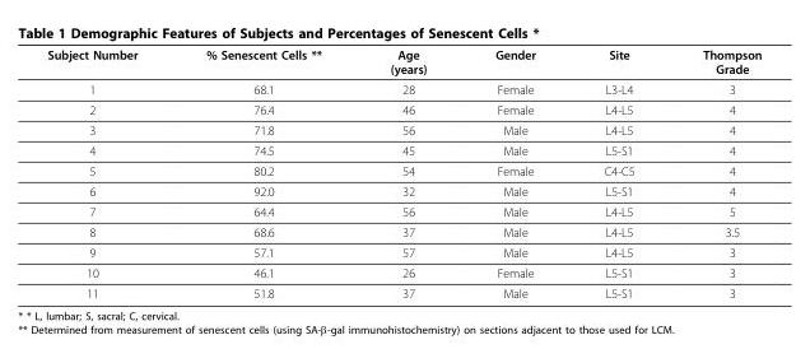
<table><thead><tr><td>Subject Number</td><td>% Senescent Cells **</td><td>Age (years)</td><td>Gender</td><td>Site</td><td>Thompson Grade</td></tr></thead><tbody><tr><td>1</td><td>68.1</td><td>28</td><td>Female</td><td>L3-L4</td><td>3</td></tr><tr><td>2</td><td>76.4</td><td>46</td><td>Female</td><td>L4-L5</td><td>4</td></tr><tr><td>3</td><td>71.8</td><td>56</td><td>Male</td><td>L4-L5</td><td>4</td></tr><tr><td>4</td><td>74.5</td><td>45</td><td>Male</td><td>L5-S1</td><td>4</td></tr><tr><td>5</td><td>80.2</td><td>54</td><td>Female</td><td>C4-C5</td><td>4</td></tr><tr><td>6</td><td>92.0</td><td>32</td><td>Male</td><td>L5-S1</td><td>4</td></tr><tr><td>7</td><td>64.4</td><td>56</td><td>Male</td><td>L4-L5</td><td>5</td></tr><tr><td>8</td><td>68.6</td><td>37</td><td>Male</td><td>L4-L5</td><td>3.5</td></tr><tr><td>9</td><td>57.1</td><td>57</td><td>Male</td><td>L4-L5</td><td>3</td></tr><tr><td>10</td><td>46.1</td><td>26</td><td>Female</td><td>L5-S1</td><td>3</td></tr><tr><td>11</td><td>51.8</td><td>37</td><td>Male</td><td>L5-S1</td><td>3</td></tr></tbody></table>